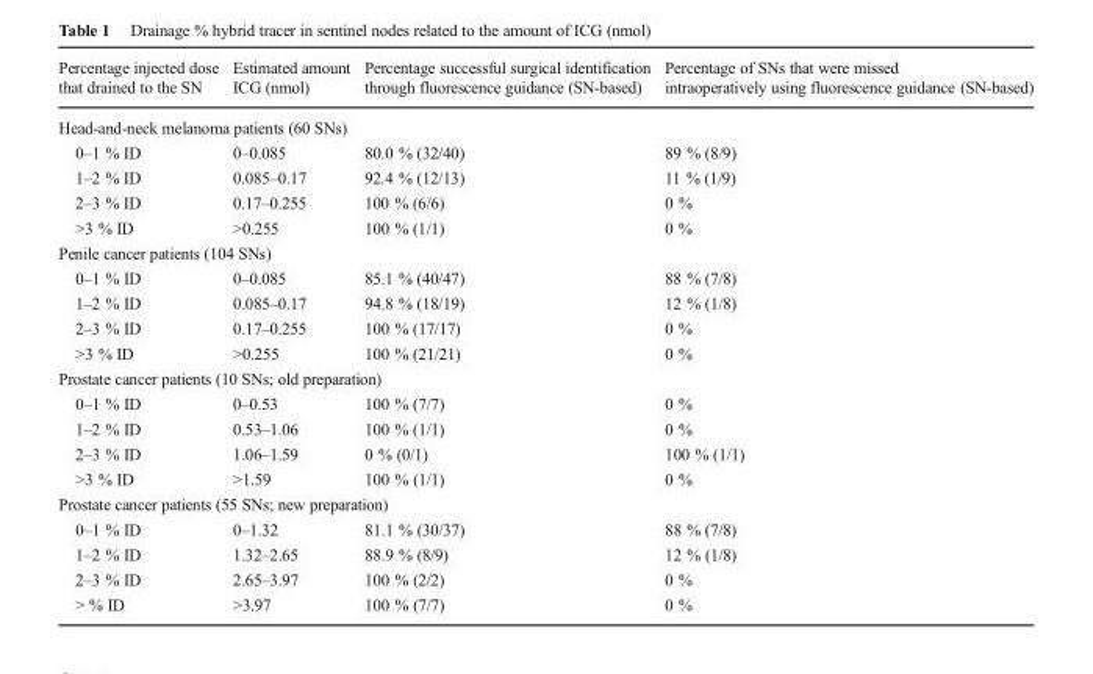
<table><thead><tr><td>Percentage injected dose that drained to the SN</td><td>Estimated amount ICG (nmol)</td><td>Percentage successful surgical identification through fluorescence guidance (SN-based)</td><td>Percentage of SNs that were missed intraoperatively using fluorescence guidance (SN-based)</td></tr></thead><tbody><tr><td colspan="4">Head-and-neck melanoma patients (60 SNs)</td></tr><tr><td>0–1 % ID</td><td>0–0.085</td><td>80.0 % (32/40)</td><td>89 % (8/9)</td></tr><tr><td>1–2 % ID</td><td>0.085–0.17</td><td>92.4 % (12/13)</td><td>11 % (1/9)</td></tr><tr><td>2–3 % ID</td><td>0.17–0.255</td><td>100 % (6/6)</td><td>0 %</td></tr><tr><td>&gt;3 % ID</td><td>&gt;0.255</td><td>100 % (1/1)</td><td>0 %</td></tr><tr><td colspan="4">Penile cancer patients (104 SNs)</td></tr><tr><td>0–1 % ID</td><td>0–0.085</td><td>85.1 % (40/47)</td><td>88 % (7/8)</td></tr><tr><td>1–2 % ID</td><td>0.085–0.17</td><td>94.8 % (18/19)</td><td>12 % (1/8)</td></tr><tr><td>2–3 % ID</td><td>0.17–0.255</td><td>100 % (17/17)</td><td>0 %</td></tr><tr><td>&gt;3 % ID</td><td>&gt;0.255</td><td>100 % (21/21)</td><td>0 %</td></tr><tr><td colspan="4">Prostate cancer patients (10 SNs; old preparation)</td></tr><tr><td>0–1 % ID</td><td>0–0.53</td><td>100 % (7/7)</td><td>0 %</td></tr><tr><td>1–2 % ID</td><td>0.53–1.06</td><td>100 % (1/1)</td><td>0 %</td></tr><tr><td>2–3 % ID</td><td>1.06–1.59</td><td>0 % (0/1)</td><td>100 % (1/1)</td></tr><tr><td>&gt;3 % ID</td><td>&gt;1.59</td><td>100 % (1/1)</td><td>0 %</td></tr><tr><td colspan="4">Prostate cancer patients (55 SNs; new preparation)</td></tr><tr><td>0–1 % ID</td><td>0–1.32</td><td>81.1 % (30/37)</td><td>88 % (7/8)</td></tr><tr><td>1–2 % ID</td><td>1.32–2.65</td><td>88.9 % (8/9)</td><td>12 % (1/8)</td></tr><tr><td>2–3 % ID</td><td>2.65–3.97</td><td>100 % (2/2)</td><td>0 %</td></tr><tr><td>&gt; % ID</td><td>&gt;3.97</td><td>100 % (7/7)</td><td>0 %</td></tr></tbody></table>